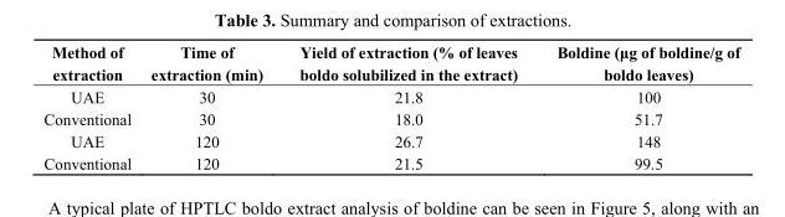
<table><thead><tr><td>Method of extraction</td><td>Time of extraction (min)</td><td>Yield of extraction (% of leaves boldo solubilized in the extract)</td><td>Boldine (μg of boldine/g of boldo leaves)</td></tr></thead><tbody><tr><td>UAE</td><td>30</td><td>21.8</td><td>100</td></tr><tr><td>Conventional</td><td>30</td><td>18.0</td><td>51.7</td></tr><tr><td>UAE</td><td>120</td><td>26.7</td><td>148</td></tr><tr><td>Conventional</td><td>120</td><td>21.5</td><td>99.5</td></tr></tbody></table>